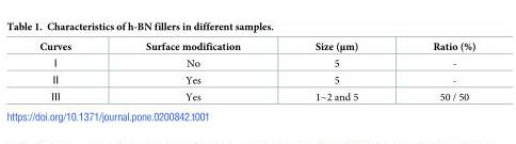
<table><thead><tr><td>Curves</td><td>Surface modification</td><td>Size (μm)</td><td>Ratio (%)</td></tr></thead><tbody><tr><td>Ⅰ</td><td>No</td><td>5</td><td>-</td></tr><tr><td>Ⅱ</td><td>Yes</td><td>5</td><td>-</td></tr><tr><td>Ⅲ</td><td>Yes</td><td>1~2 and 5</td><td>50 / 50</td></tr></tbody></table>